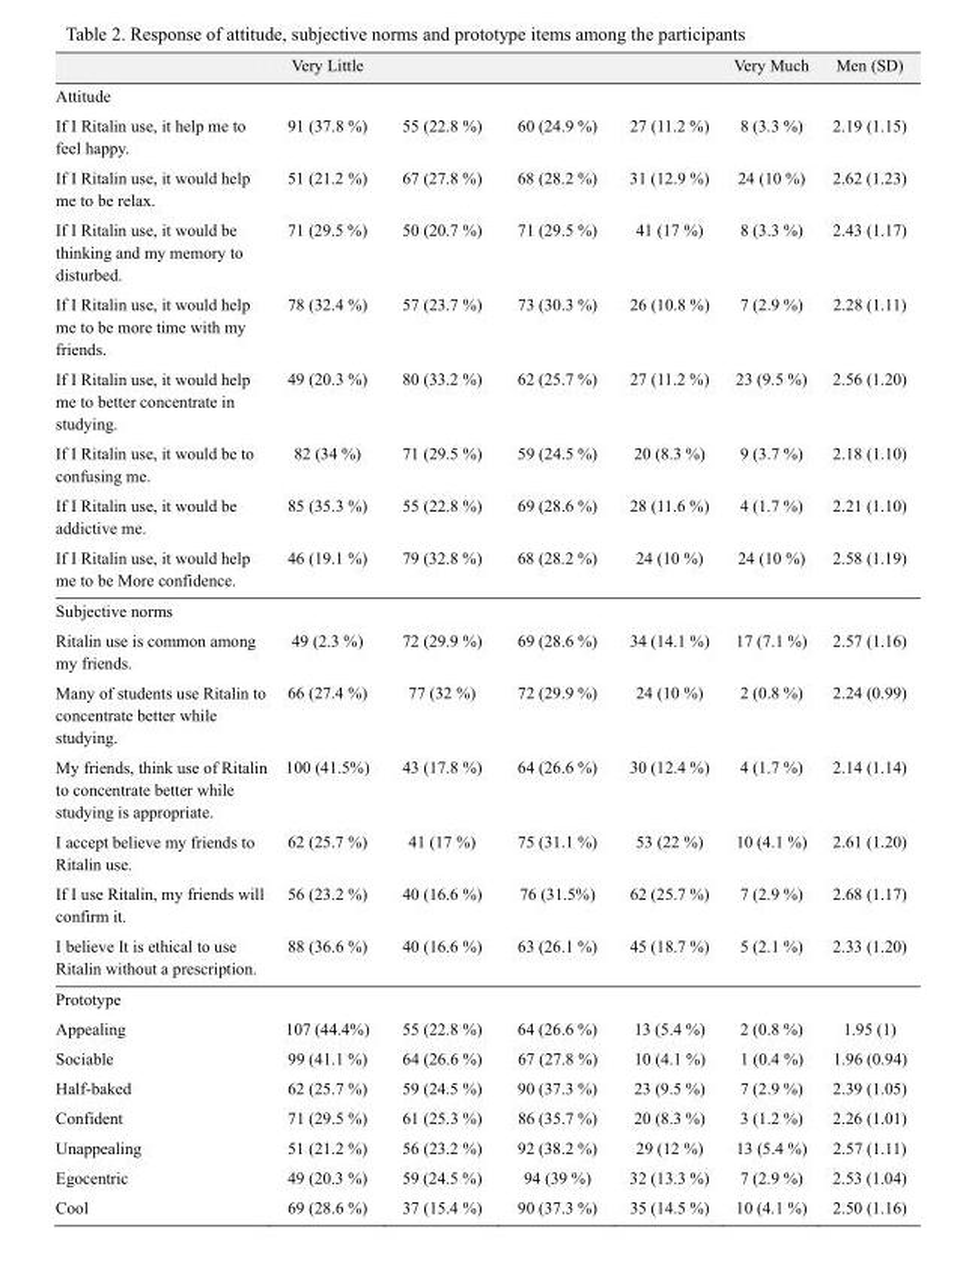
<table><thead><tr><td></td><td>Very Little</td><td></td><td></td><td></td><td>Very Much</td><td>Men (SD)</td></tr></thead><tbody><tr><td colspan="7">Attitude</td></tr><tr><td>If I Ritalin use, it help me to feel happy.</td><td>91 (37.8 %)</td><td>55 (22.8 %)</td><td>60 (24.9 %)</td><td>27 (11.2 %)</td><td>8 (3.3 %)</td><td>2.19 (1.15)</td></tr><tr><td>If I Ritalin use, it would help me to be relax.</td><td>51 (21.2 %)</td><td>67 (27.8 %)</td><td>68 (28.2 %)</td><td>31 (12.9 %)</td><td>24 (10 %)</td><td>2.62 (1.23)</td></tr><tr><td>If I Ritalin use, it would be thinking and my memory to disturbed.</td><td>71 (29.5 %)</td><td>50 (20.7 %)</td><td>71 (29.5 %)</td><td>41 (17 %)</td><td>8 (3.3 %)</td><td>2.43 (1.17)</td></tr><tr><td>If I Ritalin use, it would help me to be more time with my friends.</td><td>78 (32.4 %)</td><td>57 (23.7 %)</td><td>73 (30.3 %)</td><td>26 (10.8 %)</td><td>7 (2.9 %)</td><td>2.28 (1.11)</td></tr><tr><td>If I Ritalin use, it would help me to better concentrate in studying.</td><td>49 (20.3 %)</td><td>80 (33.2 %)</td><td>62 (25.7 %)</td><td>27 (11.2 %)</td><td>23 (9.5 %)</td><td>2.56 (1.20)</td></tr><tr><td>If I Ritalin use, it would be to confusing me.</td><td>82 (34 %)</td><td>71 (29.5 %)</td><td>59 (24.5 %)</td><td>20 (8.3 %)</td><td>9 (3.7 %)</td><td>2.18 (1.10)</td></tr><tr><td>If I Ritalin use, it would be addictive me.</td><td>85 (35.3 %)</td><td>55 (22.8 %)</td><td>69 (28.6 %)</td><td>28 (11.6 %)</td><td>4 (1.7 %)</td><td>2.21 (1.10)</td></tr><tr><td>If I Ritalin use, it would help me to be More confidence.</td><td>46 (19.1 %)</td><td>79 (32.8 %)</td><td>68 (28.2 %)</td><td>24 (10 %)</td><td>24 (10 %)</td><td>2.58 (1.19)</td></tr><tr><td colspan="7">Subjective norms</td></tr><tr><td>Ritalin use is common among my friends.</td><td>49 (2.3 %)</td><td>72 (29.9 %)</td><td>69 (28.6 %)</td><td>34 (14.1 %)</td><td>17 (7.1 %)</td><td>2.57 (1.16)</td></tr><tr><td>Many of students use Ritalin to concentrate better while studying.</td><td>66 (27.4 %)</td><td>77 (32 %)</td><td>72 (29.9 %)</td><td>24 (10 %)</td><td>2 (0.8 %)</td><td>2.24 (0.99)</td></tr><tr><td>My friends, think use of Ritalin to concentrate better while studying is appropriate.</td><td>100 (41.5%)</td><td>43 (17.8 %)</td><td>64 (26.6 %)</td><td>30 (12.4 %)</td><td>4 (1.7 %)</td><td>2.14 (1.14)</td></tr><tr><td>I accept believe my friends to Ritalin use.</td><td>62 (25.7 %)</td><td>41 (17 %)</td><td>75 (31.1 %)</td><td>53 (22 %)</td><td>10 (4.1 %)</td><td>2.61 (1.20)</td></tr><tr><td>If I use Ritalin, my friends will confirm it.</td><td>56 (23.2 %)</td><td>40 (16.6 %)</td><td>76 (31.5%)</td><td>62 (25.7 %)</td><td>7 (2.9 %)</td><td>2.68 (1.17)</td></tr><tr><td>I believe It is ethical to use Ritalin without a prescription.</td><td>88 (36.6 %)</td><td>40 (16.6 %)</td><td>63 (26.1 %)</td><td>45 (18.7 %)</td><td>5 (2.1 %)</td><td>2.33 (1.20)</td></tr><tr><td colspan="7">Prototype</td></tr><tr><td>Appealing</td><td>107 (44.4%)</td><td>55 (22.8 %)</td><td>64 (26.6 %)</td><td>13 (5.4 %)</td><td>2 (0.8 %)</td><td>1.95 (1)</td></tr><tr><td>Sociable</td><td>99 (41.1 %)</td><td>64 (26.6 %)</td><td>67 (27.8 %)</td><td>10 (4.1 %)</td><td>1 (0.4 %)</td><td>1.96 (0.94)</td></tr><tr><td>Half-baked</td><td>62 (25.7 %)</td><td>59 (24.5 %)</td><td>90 (37.3 %)</td><td>23 (9.5 %)</td><td>7 (2.9 %)</td><td>2.39 (1.05)</td></tr><tr><td>Confident</td><td>71 (29.5 %)</td><td>61 (25.3 %)</td><td>86 (35.7 %)</td><td>20 (8.3 %)</td><td>3 (1.2 %)</td><td>2.26 (1.01)</td></tr><tr><td>Unappealing</td><td>51 (21.2 %)</td><td>56 (23.2 %)</td><td>92 (38.2 %)</td><td>29 (12 %)</td><td>13 (5.4 %)</td><td>2.57 (1.11)</td></tr><tr><td>Egocentric</td><td>49 (20.3 %)</td><td>59 (24.5 %)</td><td>94 (39 %)</td><td>32 (13.3 %)</td><td>7 (2.9 %)</td><td>2.53 (1.04)</td></tr><tr><td>Cool</td><td>69 (28.6 %)</td><td>37 (15.4 %)</td><td>90 (37.3 %)</td><td>35 (14.5 %)</td><td>10 (4.1 %)</td><td>2.50 (1.16)</td></tr></tbody></table>